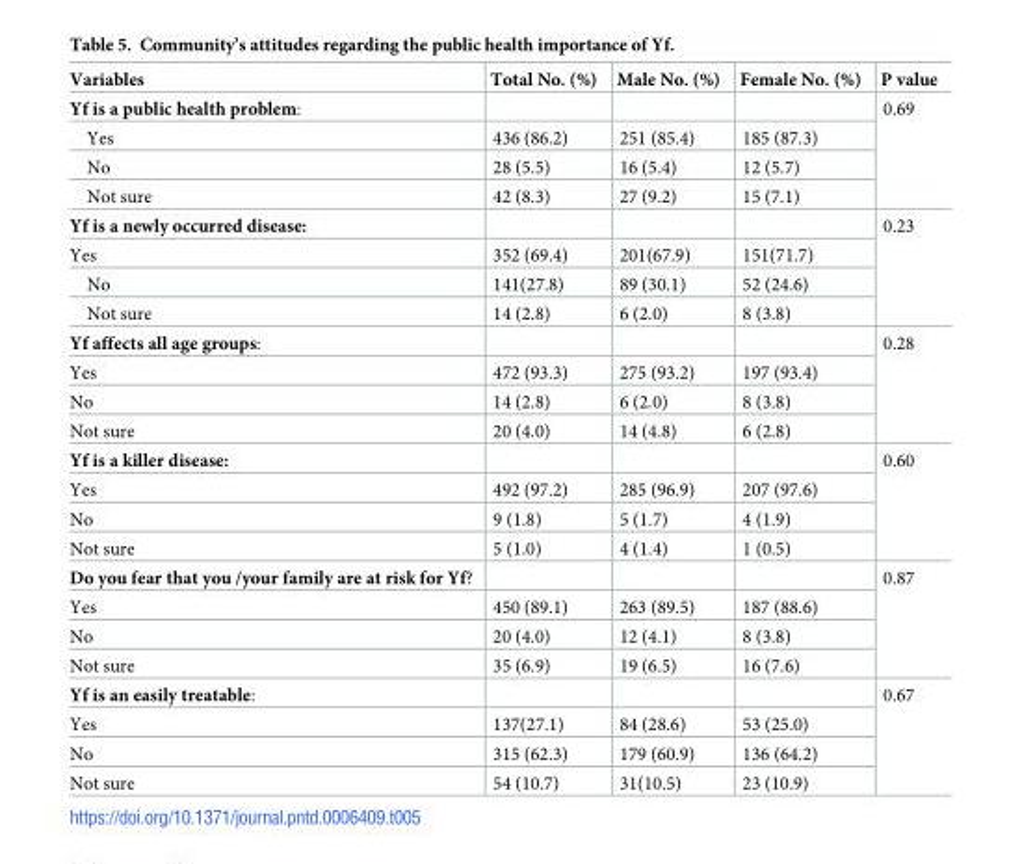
<table><thead><tr><td>Variables</td><td>Total No. (%)</td><td>Male No. (%)</td><td>Female No. (%)</td><td>P value</td></tr></thead><tbody><tr><td colspan="4">Yf is a public health problem:</td><td rowspan="4">0.69</td></tr><tr><td>Yes</td><td>436 (86.2)</td><td>251 (85.4)</td><td>185 (87.3)</td></tr><tr><td>No</td><td>28 (5.5)</td><td>16 (5.4)</td><td>12 (5.7)</td></tr><tr><td>Not sure</td><td>42 (8.3)</td><td>27 (9.2)</td><td>15 (7.1)</td></tr><tr><td colspan="4">Yf is a newly occurred disease:</td><td rowspan="4">0.23</td></tr><tr><td>Yes</td><td>352 (69.4)</td><td>201(67.9)</td><td>151(71.7)</td></tr><tr><td>No</td><td>141(27.8)</td><td>89 (30.1)</td><td>52 (24.6)</td></tr><tr><td>Not sure</td><td>14 (2.8)</td><td>6 (2.0)</td><td>8 (3.8)</td></tr><tr><td colspan="4">Yf affects all age groups:</td><td rowspan="4">0.28</td></tr><tr><td>Yes</td><td>472 (93.3)</td><td>275 (93.2)</td><td>197 (93.4)</td></tr><tr><td>No</td><td>14 (2.8)</td><td>6 (2.0)</td><td>8 (3.8)</td></tr><tr><td>Not sure</td><td>20 (4.0)</td><td>14 (4.8)</td><td>6 (2.8)</td></tr><tr><td colspan="4">Yf is a killer disease:</td><td rowspan="4">0.60</td></tr><tr><td>Yes</td><td>492 (97.2)</td><td>285 (96.9)</td><td>207 (97.6)</td></tr><tr><td>No</td><td>9 (1.8)</td><td>5 (1.7)</td><td>4 (1.9)</td></tr><tr><td>Not sure</td><td>5 (1.0)</td><td>4 (1.4)</td><td>1 (0.5)</td></tr><tr><td colspan="4">Do you fear that you /your family are at risk for Yf?</td><td rowspan="4">0.87</td></tr><tr><td>Yes</td><td>450 (89.1)</td><td>263 (89.5)</td><td>187 (88.6)</td></tr><tr><td>No</td><td>20 (4.0)</td><td>12 (4.1)</td><td>8 (3.8)</td></tr><tr><td>Not sure</td><td>35 (6.9)</td><td>19 (6.5)</td><td>16 (7.6)</td></tr><tr><td colspan="4">Yf is an easily treatable:</td><td rowspan="4">0.67</td></tr><tr><td>Yes</td><td>137(27.1)</td><td>84 (28.6)</td><td>53 (25.0)</td></tr><tr><td>No</td><td>315 (62.3)</td><td>179 (60.9)</td><td>136 (64.2)</td></tr><tr><td>Not sure</td><td>54 (10.7)</td><td>31(10.5)</td><td>23 (10.9)</td></tr></tbody></table>